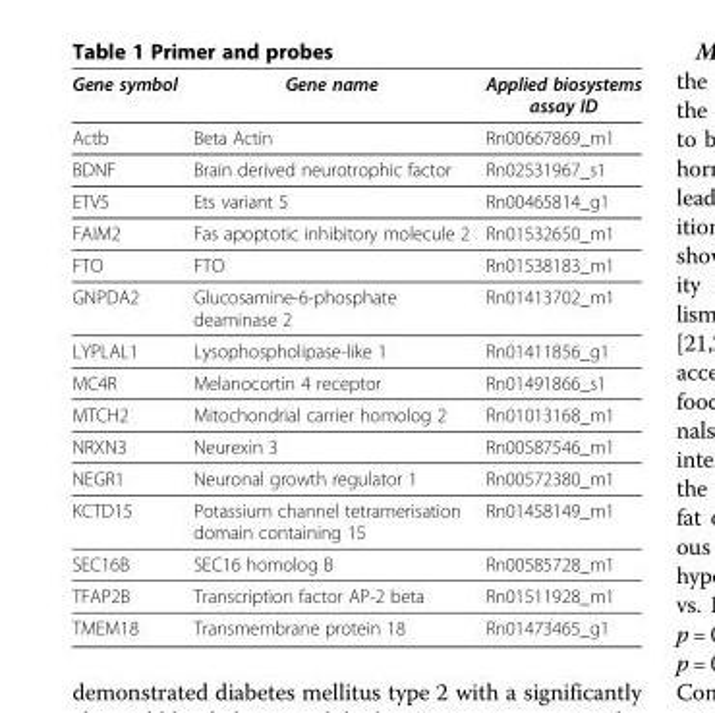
<table><thead><tr><td>Gene symbol</td><td>Gene name</td><td>Applied biosystems assay ID</td></tr></thead><tbody><tr><td>Actb</td><td>Beta Actin</td><td>Rn00667869_m1</td></tr><tr><td>BDNF</td><td>Brain derived neurotrophic factor</td><td>Rn02531967_s1</td></tr><tr><td>ETV5</td><td>Ets variant 5</td><td>Rn00465814_g1</td></tr><tr><td>FAIM2</td><td>Fas apoptotic inhibitory molecule 2</td><td>Rn01532650_m1</td></tr><tr><td>FTO</td><td>FTO</td><td>Rn01538183_m1</td></tr><tr><td>GNPDA2</td><td>Glucosamine-6-phosphate deaminase 2</td><td>Rn01413702_m1</td></tr><tr><td>LYPLAL1</td><td>Lysophospholipase-like 1</td><td>Rn01411856_g1</td></tr><tr><td>MC4R</td><td>Melanocortin 4 receptor</td><td>Rn01491866_s1</td></tr><tr><td>MTCH2</td><td>Mitochondrial carrier homolog 2</td><td>Rn01013168_m1</td></tr><tr><td>NRXN3</td><td>Neurexin 3</td><td>Rn00587546_m1</td></tr><tr><td>NEGR1</td><td>Neuronal growth regulator 1</td><td>Rn00572380_m1</td></tr><tr><td>KCTD15</td><td>Potassium channel tetramerisation domain containing 15</td><td>Rn01458149_m1</td></tr><tr><td>SEC16B</td><td>SEC16 homolog B</td><td>Rn00585728_m1</td></tr><tr><td>TFAP2B</td><td>Transcription factor AP-2 beta</td><td>Rn01511928_m1</td></tr><tr><td>TMEM18</td><td>Transmembrane protein 18</td><td>Rn01473465_g1</td></tr></tbody></table>